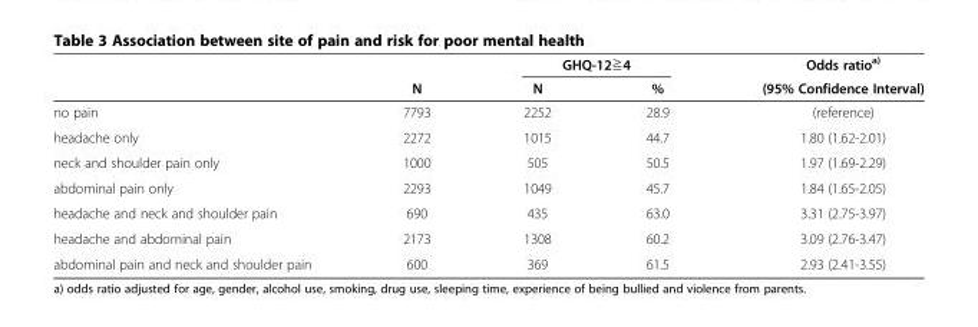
<table><thead><tr><td rowspan="2"></td><td rowspan="2">N</td><td colspan="2">GHQ-12≧4</td><td rowspan="2">Odds ratio<sup>a)</sup> (95% Confidence Interval)</td></tr><tr><td>N</td><td>%</td></tr></thead><tbody><tr><td>no pain</td><td>7793</td><td>2252</td><td>28.9</td><td>(reference)</td></tr><tr><td>headache only</td><td>2272</td><td>1015</td><td>44.7</td><td>1.80 (1.62-2.01)</td></tr><tr><td>neck and shoulder pain only</td><td>1000</td><td>505</td><td>50.5</td><td>1.97 (1.69-2.29)</td></tr><tr><td>abdominal pain only</td><td>2293</td><td>1049</td><td>45.7</td><td>1.84 (1.65-2.05)</td></tr><tr><td>headache and neck and shoulder pain</td><td>690</td><td>435</td><td>63.0</td><td>3.31 (2.75-3.97)</td></tr><tr><td>headache and abdominal pain</td><td>2173</td><td>1308</td><td>60.2</td><td>3.09 (2.76-3.47)</td></tr><tr><td>abdominal pain and neck and shoulder pain</td><td>600</td><td>369</td><td>61.5</td><td>2.93 (2.41-3.55)</td></tr></tbody></table>